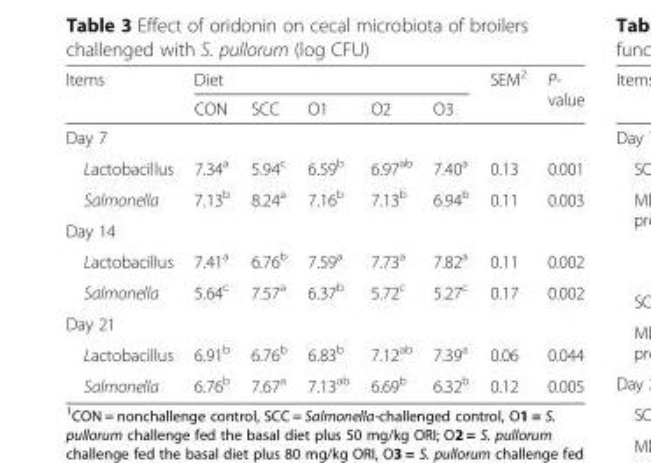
<table><thead><tr><td rowspan="2">Items</td><td colspan="5">Diet</td><td rowspan="2">SEM<sup>2</sup></td><td rowspan="2">P- value</td></tr><tr><td>CON</td><td>SCC</td><td>O1</td><td>O2</td><td>O3</td></tr></thead><tbody><tr><td colspan="8">Day 7</td></tr><tr><td>Lactobacillus</td><td>7.34<sup>a</sup></td><td>5.94<sup>c</sup></td><td>6.59<sup>b</sup></td><td>6.97<sup>ab</sup></td><td>7.40<sup>a</sup></td><td>0.13</td><td>0.001</td></tr><tr><td>Salmonella</td><td>7.13<sup>b</sup></td><td>8.24<sup>a</sup></td><td>7.16<sup>b</sup></td><td>7.13<sup>b</sup></td><td>6.94<sup>b</sup></td><td>0.11</td><td>0.003</td></tr><tr><td colspan="8">Day 14</td></tr><tr><td>Lactobacillus</td><td>7.41<sup>a</sup></td><td>6.76<sup>b</sup></td><td>7.59<sup>a</sup></td><td>7.73<sup>a</sup></td><td>7.82<sup>a</sup></td><td>0.11</td><td>0.002</td></tr><tr><td>Salmonella</td><td>5.64<sup>c</sup></td><td>7.57<sup>a</sup></td><td>6.37<sup>b</sup></td><td>5.72<sup>c</sup></td><td>5.27<sup>c</sup></td><td>0.17</td><td>0.002</td></tr><tr><td colspan="8">Day 21</td></tr><tr><td>Lactobacillus</td><td>6.91<sup>b</sup></td><td>6.76<sup>b</sup></td><td>6.83<sup>b</sup></td><td>7.12<sup>ab</sup></td><td>7.39<sup>a</sup></td><td>0.06</td><td>0.044</td></tr><tr><td>Salmonella</td><td>6.76<sup>b</sup></td><td>7.67<sup>a</sup></td><td>7.13<sup>ab</sup></td><td>6.69<sup>b</sup></td><td>6.32<sup>b</sup></td><td>0.12</td><td>0.005</td></tr></tbody></table>